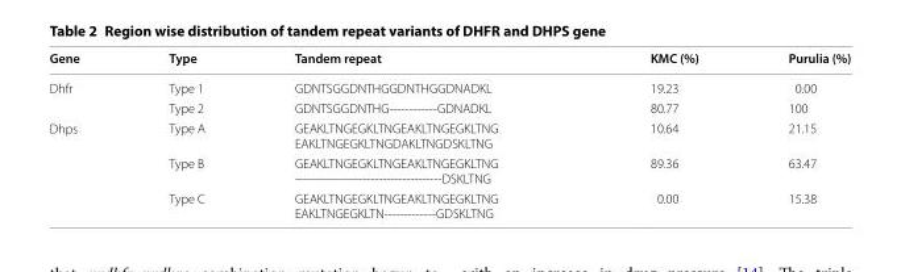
<table><thead><tr><td>Gene</td><td>Type</td><td>Tandem repeat</td><td>KMC (%)</td><td>Purulia (%)</td></tr></thead><tbody><tr><td rowspan="2">Dhfr</td><td>Type 1</td><td>GDNTSGGDNTHGGDNTHGGDNADKL</td><td>19.23</td><td>0.00</td></tr><tr><td>Type 2</td><td>GDNTSGGDNTHG------------GDNADKL</td><td>80.77</td><td>100</td></tr><tr><td rowspan="3">Dhps</td><td>Type A</td><td>GEAKLTNGEGKLTNGEAKLTNGEGKLTNG EAKLTNGEGKLTNGDAKLTNGDSKLTNG</td><td>10.64</td><td>21.15</td></tr><tr><td>Type B</td><td>GEAKLTNGEGKLTNGEAKLTNGEGKLTNG -------------------------------------DSKLTNG</td><td>89.36</td><td>63.47</td></tr><tr><td>Type C</td><td>GEAKLTNGEGKLTNGEAKLTNGEGKLTNG EAKLTNGEGKLTN-------------GDSKLTNG</td><td>0.00</td><td>15.38</td></tr></tbody></table>